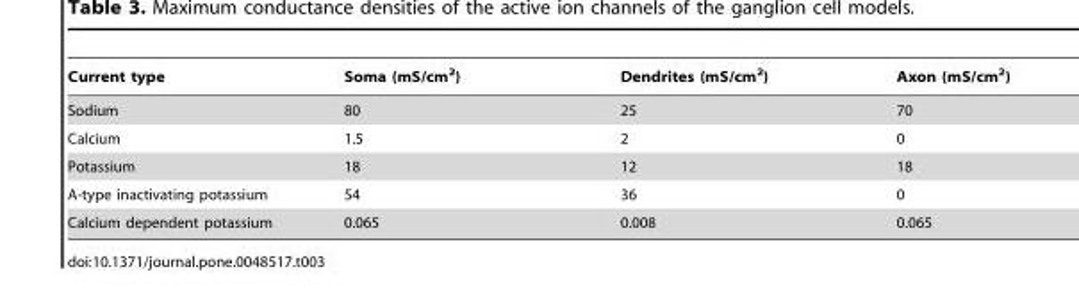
<table><thead><tr><td>Current type</td><td>Soma (mS/cm<sup>2</sup>)</td><td>Dendrites (mS/cm<sup>2</sup>)</td><td>Axon (mS/cm<sup>2</sup>)</td></tr></thead><tbody><tr><td>Sodium</td><td>80</td><td>25</td><td>70</td></tr><tr><td>Calcium</td><td>1.5</td><td>2</td><td>0</td></tr><tr><td>Potassium</td><td>18</td><td>12</td><td>18</td></tr><tr><td>A-type inactivating potassium</td><td>54</td><td>36</td><td>0</td></tr><tr><td>Calcium dependent potassium</td><td>0.065</td><td>0.008</td><td>0.065</td></tr></tbody></table>